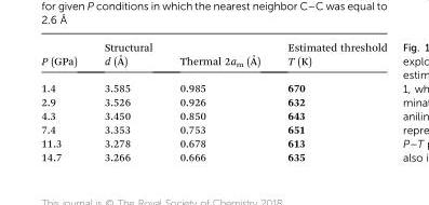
<table><thead><tr><td>P (GPa)</td><td>Structural d (˚A)</td><td>Thermal 2am (˚A)</td><td>Estimated threshold T (K)</td></tr></thead><tbody><tr><td>1.4</td><td>3.585</td><td>0.985</td><td>670</td></tr><tr><td>2.9</td><td>3.526</td><td>0.926</td><td>632</td></tr><tr><td>4.3</td><td>3.450</td><td>0.850</td><td>643</td></tr><tr><td>7.4</td><td>3.353</td><td>0.753</td><td>651</td></tr><tr><td>11.3</td><td>3.278</td><td>0.678</td><td>613</td></tr><tr><td>14.7</td><td>3.266</td><td>0.666</td><td>635</td></tr></tbody></table>